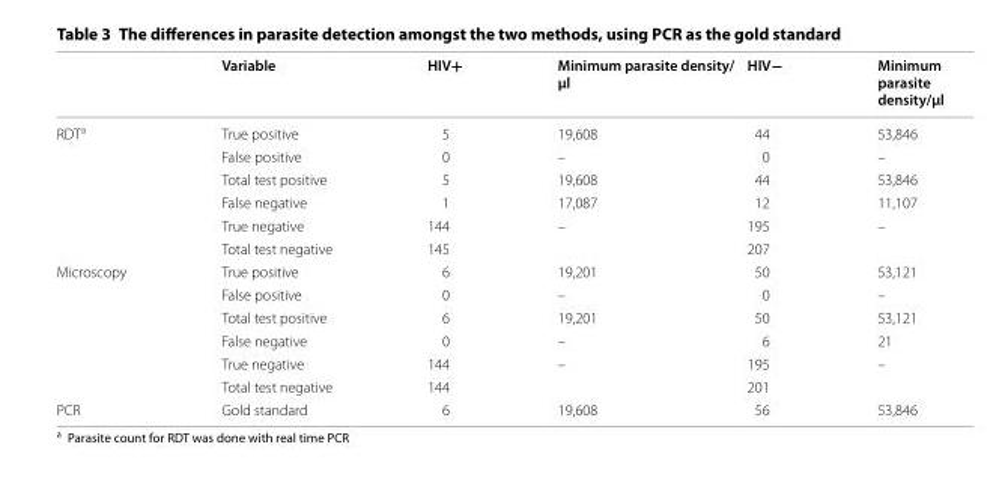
<table><thead><tr><td></td><td>Variable</td><td>HIV+</td><td>Minimum parasite density/ µl</td><td>HIV−</td><td>Minimum parasite density/µl</td></tr></thead><tbody><tr><td rowspan="6">RDT<sup>a</sup></td><td>True positive</td><td>5</td><td>19,608</td><td>44</td><td>53,846</td></tr><tr><td>False positive</td><td>0</td><td>–</td><td>0</td><td>–</td></tr><tr><td>Total test positive</td><td>5</td><td>19,608</td><td>44</td><td>53,846</td></tr><tr><td>False negative</td><td>1</td><td>17,087</td><td>12</td><td>11,107</td></tr><tr><td>True negative</td><td>144</td><td>–</td><td>195</td><td>–</td></tr><tr><td>Total test negative</td><td>145</td><td></td><td>207</td><td></td></tr><tr><td rowspan="6">Microscopy</td><td>True positive</td><td>6</td><td>19,201</td><td>50</td><td>53,121</td></tr><tr><td>False positive</td><td>0</td><td>–</td><td>0</td><td>–</td></tr><tr><td>Total test positive</td><td>6</td><td>19,201</td><td>50</td><td>53,121</td></tr><tr><td>False negative</td><td>0</td><td>–</td><td>6</td><td>21</td></tr><tr><td>True negative</td><td>144</td><td>–</td><td>195</td><td>–</td></tr><tr><td>Total test negative</td><td>144</td><td></td><td>201</td><td></td></tr><tr><td>PCR</td><td>Gold standard</td><td>6</td><td>19,608</td><td>56</td><td>53,846</td></tr></tbody></table>